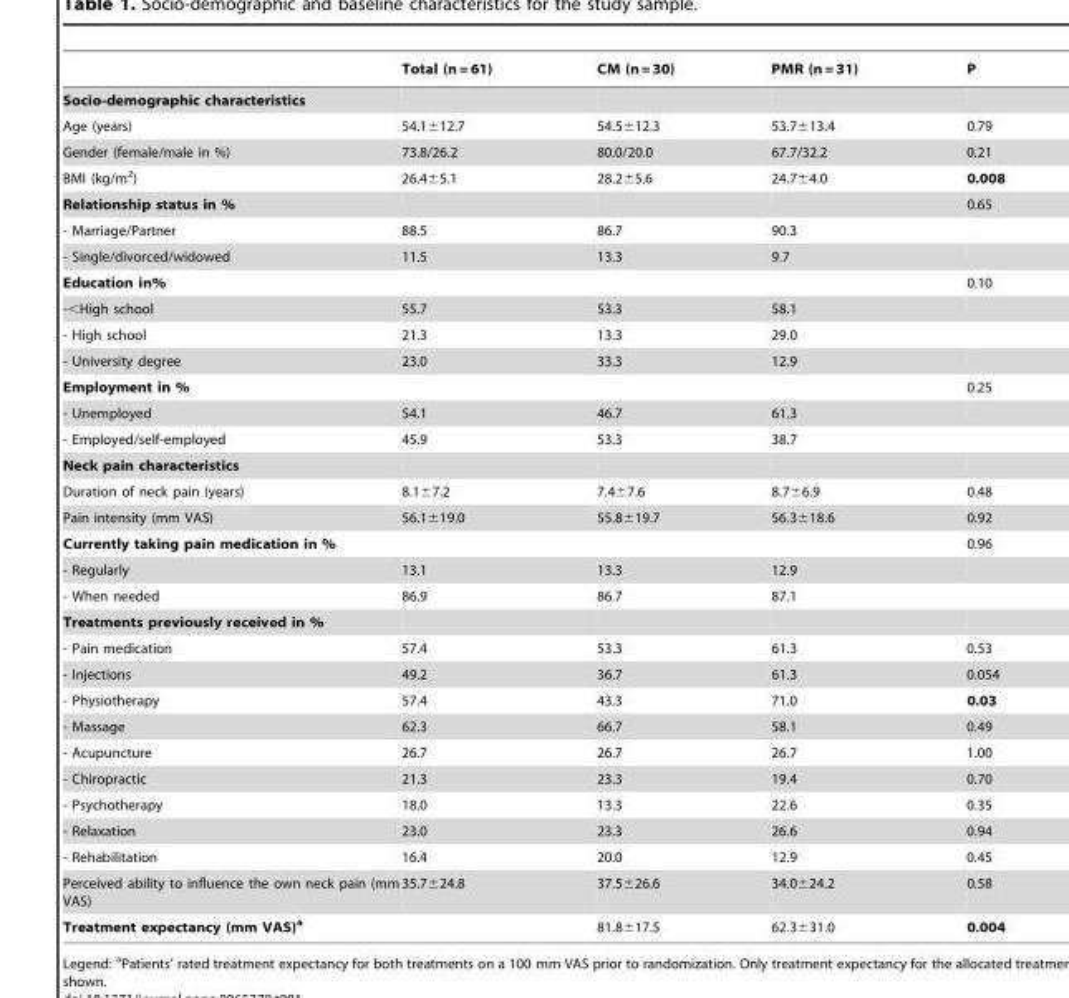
<table><thead><tr><td></td><td>Total (n = 61)</td><td>CM (n = 30)</td><td>PMR (n = 31)</td><td>P</td></tr></thead><tbody><tr><td colspan="5">Socio-demographic characteristics</td></tr><tr><td>Age (years)</td><td>54.1±12.7</td><td>54.5±12.3</td><td>53.7±13.4</td><td>0.79</td></tr><tr><td>Gender (female/male in %)</td><td>73.8/26.2</td><td>80.0/20.0</td><td>67.7/32.2</td><td>0.21</td></tr><tr><td>BMI (kg/m<sup>2</sup>)</td><td>26.4±5.1</td><td>28.2±5.6</td><td>24.7±4.0</td><td>0.008</td></tr><tr><td>Relationship status in %</td><td></td><td></td><td></td><td>0.65</td></tr><tr><td>- Marriage/Partner</td><td>88.5</td><td>86.7</td><td>90.3</td><td></td></tr><tr><td>- Single/divorced/widowed</td><td>11.5</td><td>13.3</td><td>9.7</td><td></td></tr><tr><td>Education in%</td><td></td><td></td><td></td><td>0.10</td></tr><tr><td>-&lt;High school</td><td>55.7</td><td>53.3</td><td>58.1</td><td></td></tr><tr><td>- High school</td><td>21.3</td><td>13.3</td><td>29.0</td><td></td></tr><tr><td>- University degree</td><td>23.0</td><td>33.3</td><td>12.9</td><td></td></tr><tr><td>Employment in %</td><td></td><td></td><td></td><td>0.25</td></tr><tr><td>- Unemployed</td><td>54.1</td><td>46.7</td><td>61.3</td><td></td></tr><tr><td>- Employed/self-employed</td><td>45.9</td><td>53.3</td><td>38.7</td><td></td></tr><tr><td colspan="5">Neck pain characteristics</td></tr><tr><td>Duration of neck pain (years)</td><td>8.1±7.2</td><td>7.4±7.6</td><td>8.7±6.9</td><td>0.48</td></tr><tr><td>Pain intensity (mm VAS)</td><td>56.1±19.0</td><td>55.8±19.7</td><td>56.3±18.6</td><td>0.92</td></tr><tr><td>Currently taking pain medication in %</td><td></td><td></td><td></td><td>0.96</td></tr><tr><td>- Regularly</td><td>13.1</td><td>13.3</td><td>12.9</td><td></td></tr><tr><td>- When needed</td><td>86.9</td><td>86.7</td><td>87.1</td><td></td></tr><tr><td colspan="5">Treatments previously received in %</td></tr><tr><td>- Pain medication</td><td>57.4</td><td>53.3</td><td>61.3</td><td>0.53</td></tr><tr><td>- Injections</td><td>49.2</td><td>36.7</td><td>61.3</td><td>0.054</td></tr><tr><td>- Physiotherapy</td><td>57.4</td><td>43.3</td><td>71.0</td><td>0.03</td></tr><tr><td>- Massage</td><td>62.3</td><td>66.7</td><td>58.1</td><td>0.49</td></tr><tr><td>- Acupuncture</td><td>26.7</td><td>26.7</td><td>26.7</td><td>1.00</td></tr><tr><td>- Chiropractic</td><td>21.3</td><td>23.3</td><td>19.4</td><td>0.70</td></tr><tr><td>- Psychotherapy</td><td>18.0</td><td>13.3</td><td>22.6</td><td>0.35</td></tr><tr><td>- Relaxation</td><td>23.0</td><td>23.3</td><td>26.6</td><td>0.94</td></tr><tr><td>- Rehabilitation</td><td>16.4</td><td>20.0</td><td>12.9</td><td>0.45</td></tr><tr><td>Perceived ability to influence the own neck pain (mm VAS)</td><td>35.7±24.8</td><td>37.5±26.6</td><td>34.0±24.2</td><td>0.58</td></tr><tr><td>Treatment expectancy (mm VAS)<sup>a</sup></td><td></td><td>81.8±17.5</td><td>62.3±31.0</td><td>0.004</td></tr></tbody></table>